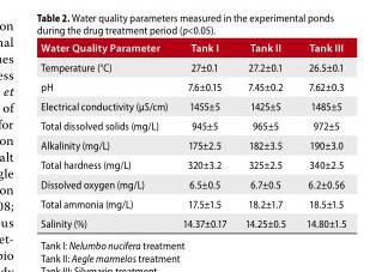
<table><thead><tr><td>Water Quality Parameter</td><td>Tank i</td><td>Tank ii</td><td>Tank iii</td></tr></thead><tbody><tr><td>Temperature (°C)</td><td>27±0.1</td><td>27.2±0.1</td><td>26.5±0.1</td></tr><tr><td>pH</td><td>7.6±0.15</td><td>7.45±0.2</td><td>7.62±0.3</td></tr><tr><td>Electrical conductivity (μS/cm)</td><td>1455±5</td><td>1425±5</td><td>1485±5</td></tr><tr><td>Total dissolved solids (mg/L)</td><td>945±5</td><td>965±5</td><td>972±5</td></tr><tr><td>Alkalinity (mg/L)</td><td>175±2.5</td><td>182±3.5</td><td>190±3.0</td></tr><tr><td>Total hardness (mg/L)</td><td>320±3.2</td><td>325±2.5</td><td>340±2.5</td></tr><tr><td>Dissolved oxygen (mg/L)</td><td>6.5±0.5</td><td>6.7±0.5</td><td>6.2±0.56</td></tr><tr><td>Total ammonia (mg/L)</td><td>17.5±1.5</td><td>18.2±1.7</td><td>18.5±1.5</td></tr><tr><td>Salinity (%)</td><td>14.37±0.17</td><td>14.25±0.5</td><td>14.80±1.5</td></tr></tbody></table>